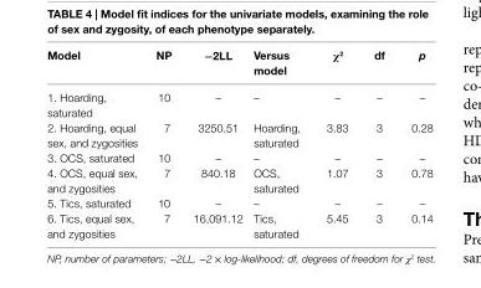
<table><thead><tr><td>Model</td><td>nP</td><td>−2ll</td><td>Versus model</td><td>χ<sup>2</sup></td><td>df</td><td>p</td></tr></thead><tbody><tr><td>1. Hoarding, saturated</td><td>10</td><td>–</td><td>–</td><td>–</td><td>–</td><td>–</td></tr><tr><td>2. Hoarding, equal sex, and zygosities</td><td>7</td><td>3250.51</td><td>Hoarding, saturated</td><td>3.83</td><td>3</td><td>0.28</td></tr><tr><td>3. OCS, saturated</td><td>10</td><td>–</td><td>–</td><td>–</td><td>–</td><td>–</td></tr><tr><td>4. OCS, equal sex, and zygosities</td><td>7</td><td>840.18</td><td>OCS, saturated</td><td>1.07</td><td>3</td><td>0.78</td></tr><tr><td>5. Tics, saturated</td><td>10</td><td>–</td><td>–</td><td>–</td><td>–</td><td>–</td></tr><tr><td>6. Tics, equal sex, and zygosities</td><td>7</td><td>16,091.12</td><td>Tics, saturated</td><td>5.45</td><td>3</td><td>0.14</td></tr></tbody></table>